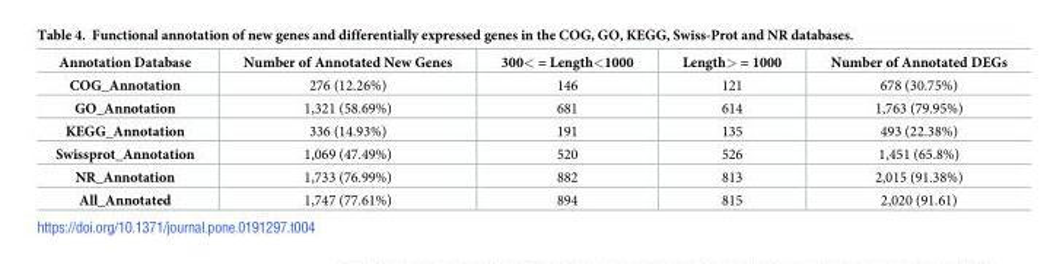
<table><thead><tr><td>Annotation Database</td><td>Number of Annotated New Genes</td><td>300&lt; = Length&lt;1000</td><td>Length&gt; = 1000</td><td>Number of Annotated DEGs</td></tr></thead><tbody><tr><td>COG_Annotation</td><td>276 (12.26%)</td><td>146</td><td>121</td><td>678 (30.75%)</td></tr><tr><td>GO_Annotation</td><td>1,321 (58.69%)</td><td>681</td><td>614</td><td>1,763 (79.95%)</td></tr><tr><td>KEGG_Annotation</td><td>336 (14.93%)</td><td>191</td><td>135</td><td>493 (22.38%)</td></tr><tr><td>Swissprot_Annotation</td><td>1,069 (47.49%)</td><td>520</td><td>526</td><td>1,451 (65.8%)</td></tr><tr><td>NR_Annotation</td><td>1,733 (76.99%)</td><td>882</td><td>813</td><td>2,015 (91.38%)</td></tr><tr><td>All_Annotated</td><td>1,747 (77.61%)</td><td>894</td><td>815</td><td>2,020 (91.61)</td></tr></tbody></table>